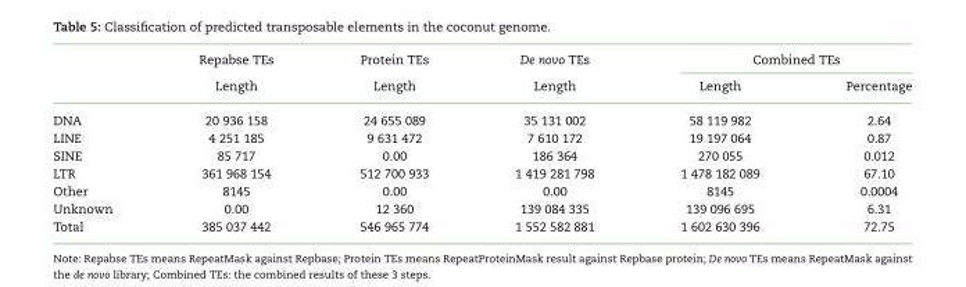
<table><thead><tr><td rowspan="2"></td><td rowspan="2">Repabse TEs Length</td><td rowspan="2">Protein TEs Length</td><td rowspan="2">De novo TEs Length</td><td colspan="2">Combined TEs</td></tr><tr><td>Length</td><td>Percentage</td></tr></thead><tbody><tr><td>DNA</td><td>20 936 158</td><td>24 655 089</td><td>35 131 002</td><td>58 119 982</td><td>2.64</td></tr><tr><td>LINE</td><td>4 251 185</td><td>9 631 472</td><td>7 610 172</td><td>19 197 064</td><td>0.87</td></tr><tr><td>SINE</td><td>85 717</td><td>0.00</td><td>186 364</td><td>270 055</td><td>0.012</td></tr><tr><td>LTR</td><td>361 968 154</td><td>512 700 933</td><td>1 419 281 798</td><td>1 478 182 089</td><td>67.10</td></tr><tr><td>Other</td><td>8145</td><td>0.00</td><td>0.00</td><td>8145</td><td>0.0004</td></tr><tr><td>Unknown</td><td>0.00</td><td>12 360</td><td>139 084 335</td><td>139 096 695</td><td>6.31</td></tr><tr><td>Total</td><td>385 037 442</td><td>546 965 774</td><td>1 552 582 881</td><td>1 602 630 396</td><td>72.75</td></tr></tbody></table>